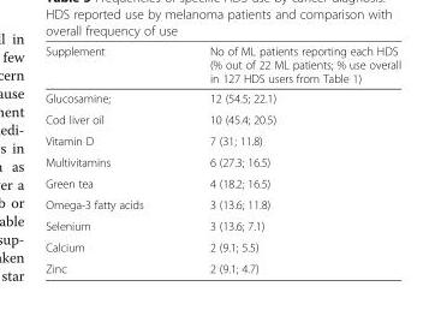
<table><thead><tr><td>Supplement</td><td>No of ML patients reporting each HDS (% out of 22 ML patients; % use overall in 127 HDS users from Table 1)</td></tr></thead><tbody><tr><td>Glucosamine;</td><td>12 (54.5; 22.1)</td></tr><tr><td>Cod liver oil</td><td>10 (45.4; 20.5)</td></tr><tr><td>Vitamin D</td><td>7 (31; 11.8)</td></tr><tr><td>Multivitamins</td><td>6 (27.3; 16.5)</td></tr><tr><td>Green tea</td><td>4 (18.2; 16.5)</td></tr><tr><td>Omega-3 fatty acids</td><td>3 (13.6; 11.8)</td></tr><tr><td>Selenium</td><td>3 (13.6; 7.1)</td></tr><tr><td>Calcium</td><td>2 (9.1; 5.5)</td></tr><tr><td>Zinc</td><td>2 (9.1; 4.7)</td></tr></tbody></table>